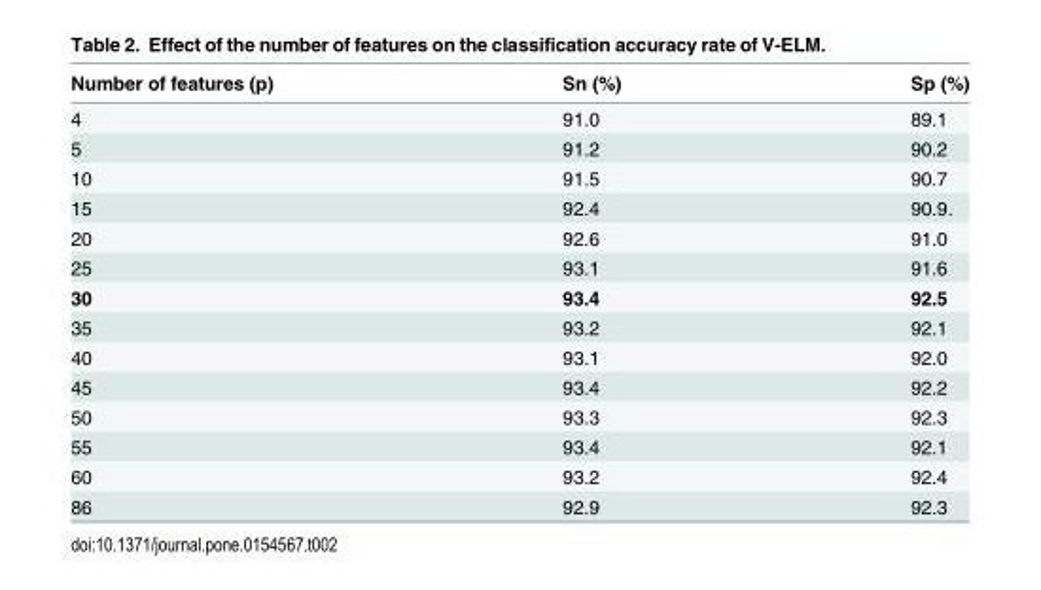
<table><thead><tr><td>Number of features (p)</td><td>Sn (%)</td><td>Sp (%)</td></tr></thead><tbody><tr><td>4</td><td>91.0</td><td>89.1</td></tr><tr><td>5</td><td>91.2</td><td>90.2</td></tr><tr><td>10</td><td>91.5</td><td>90.7</td></tr><tr><td>15</td><td>92.4</td><td>90.9.</td></tr><tr><td>20</td><td>92.6</td><td>91.0</td></tr><tr><td>25</td><td>93.1</td><td>91.6</td></tr><tr><td>30</td><td>93.4</td><td>92.5</td></tr><tr><td>35</td><td>93.2</td><td>92.1</td></tr><tr><td>40</td><td>93.1</td><td>92.0</td></tr><tr><td>45</td><td>93.4</td><td>92.2</td></tr><tr><td>50</td><td>93.3</td><td>92.3</td></tr><tr><td>55</td><td>93.4</td><td>92.1</td></tr><tr><td>60</td><td>93.2</td><td>92.4</td></tr><tr><td>86</td><td>92.9</td><td>92.3</td></tr></tbody></table>